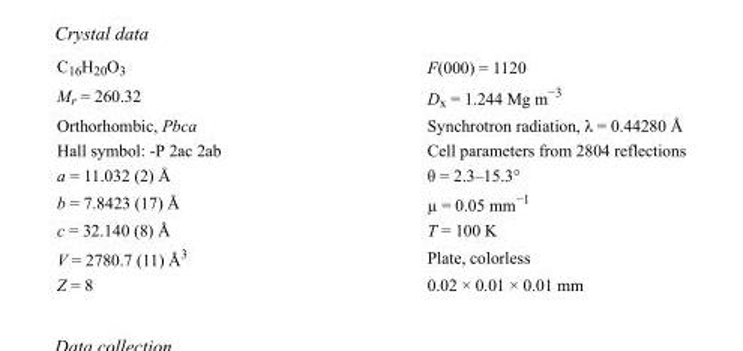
<table><tbody><tr><td>C<sub>16</sub>H<sub>20</sub>O<sub>3</sub></td><td>F(000) = 1120</td></tr><tr><td>M<sub>r</sub> = 260.32</td><td>D<sub>x</sub> = 1.244 Mg m<sup>−3</sup></td></tr><tr><td>Orthorhombic, Pbca</td><td>Synchrotron radiation, λ = 0.44280 Å</td></tr><tr><td>Hall symbol: -P 2ac 2ab</td><td>Cell parameters from 2804 reflections</td></tr><tr><td>a = 11.032 (2) Å</td><td>θ = 2.3–15.3°</td></tr><tr><td>b = 7.8423 (17) Å</td><td>µ = 0.05 mm<sup>−1</sup></td></tr><tr><td>c = 32.140 (8) Å</td><td>T = 100 K</td></tr><tr><td>V = 2780.7 (11) Å<sup>3</sup></td><td>Plate, colorless</td></tr><tr><td>Z = 8</td><td>0.02 × 0.01 × 0.01 mm</td></tr></tbody></table>